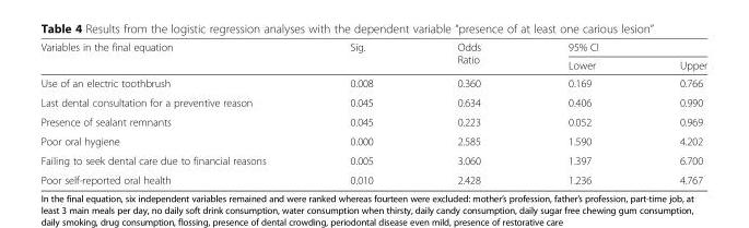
<table><thead><tr><td rowspan="2">Variables in the final equation</td><td rowspan="2">Sig.</td><td rowspan="2">Odds Ratio</td><td colspan="2">95% CI</td></tr><tr><td>Lower</td><td>Upper</td></tr></thead><tbody><tr><td>Use of an electric toothbrush</td><td>0.008</td><td>0.360</td><td>0.169</td><td>0.766</td></tr><tr><td>Last dental consultation for a preventive reason</td><td>0.045</td><td>0.634</td><td>0.406</td><td>0.990</td></tr><tr><td>Presence of sealant remnants</td><td>0.045</td><td>0.223</td><td>0.052</td><td>0.969</td></tr><tr><td>Poor oral hygiene</td><td>0.000</td><td>2.585</td><td>1.590</td><td>4.202</td></tr><tr><td>Failing to seek dental care due to financial reasons</td><td>0.005</td><td>3.060</td><td>1.397</td><td>6.700</td></tr><tr><td>Poor self-reported oral health</td><td>0.010</td><td>2.428</td><td>1.236</td><td>4.767</td></tr></tbody></table>